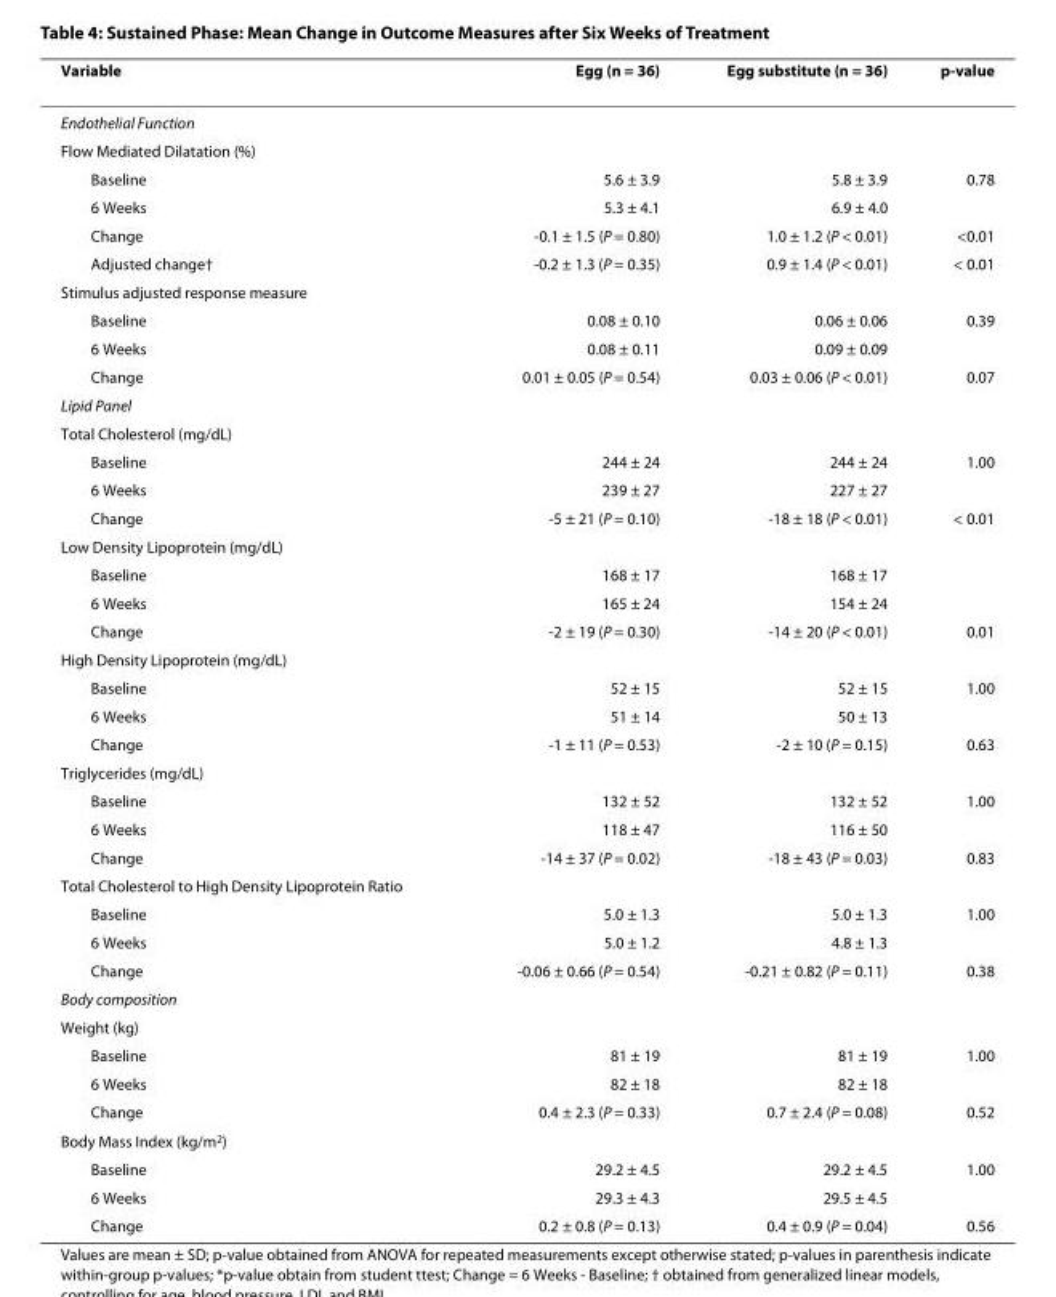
<table><thead><tr><td>Variable</td><td>Egg (n = 36)</td><td>Egg substitute (n = 36)</td><td>p-value</td></tr></thead><tbody><tr><td colspan="4">Endothelial Function</td></tr><tr><td colspan="4">Flow Mediated Dilatation (%)</td></tr><tr><td>Baseline</td><td>5.6 ± 3.9</td><td>5.8 ± 3.9</td><td>0.78</td></tr><tr><td>6 Weeks</td><td>5.3 ± 4.1</td><td>6.9 ± 4.0</td><td></td></tr><tr><td>Change</td><td>-0.1 ± 1.5 (P = 0.80)</td><td>1.0 ± 1.2 (P &lt; 0.01)</td><td>&lt;0.01</td></tr><tr><td>Adjusted change†</td><td>-0.2 ± 1.3 (P = 0.35)</td><td>0.9 ± 1.4 (P &lt; 0.01)</td><td>&lt; 0.01</td></tr><tr><td colspan="4">Stimulus adjusted response measure</td></tr><tr><td>Baseline</td><td>0.08 ± 0.10</td><td>0.06 ± 0.06</td><td>0.39</td></tr><tr><td>6 Weeks</td><td>0.08 ± 0.11</td><td>0.09 ± 0.09</td><td></td></tr><tr><td>Change</td><td>0.01 ± 0.05 (P = 0.54)</td><td>0.03 ± 0.06 (P &lt; 0.01)</td><td>0.07</td></tr><tr><td colspan="4">Lipid Panel</td></tr><tr><td colspan="4">Total Cholesterol (mg/dL)</td></tr><tr><td>Baseline</td><td>244 ± 24</td><td>244 ± 24</td><td>1.00</td></tr><tr><td>6 Weeks</td><td>239 ± 27</td><td>227 ± 27</td><td></td></tr><tr><td>Change</td><td>-5 ± 21 (P = 0.10)</td><td>-18 ± 18 (P &lt; 0.01)</td><td>&lt; 0.01</td></tr><tr><td colspan="4">Low Density Lipoprotein (mg/dL)</td></tr><tr><td>Baseline</td><td>168 ± 17</td><td>168 ± 17</td><td></td></tr><tr><td>6 Weeks</td><td>165 ± 24</td><td>154 ± 24</td><td></td></tr><tr><td>Change</td><td>-2 ± 19 (P = 0.30)</td><td>-14 ± 20 (P &lt; 0.01)</td><td>0.01</td></tr><tr><td colspan="4">High Density Lipoprotein (mg/dL)</td></tr><tr><td>Baseline</td><td>52 ± 15</td><td>52 ± 15</td><td>1.00</td></tr><tr><td>6 Weeks</td><td>51 ± 14</td><td>50 ± 13</td><td></td></tr><tr><td>Change</td><td>-1 ± 11 (P = 0.53)</td><td>-2 ± 10 (P = 0.15)</td><td>0.63</td></tr><tr><td colspan="4">Triglycerides (mg/dL)</td></tr><tr><td>Baseline</td><td>132 ± 52</td><td>132 ± 52</td><td>1.00</td></tr><tr><td>6 Weeks</td><td>118 ± 47</td><td>116 ± 50</td><td></td></tr><tr><td>Change</td><td>-14 ± 37 (P = 0.02)</td><td>-18 ± 43 (P = 0.03)</td><td>0.83</td></tr><tr><td colspan="4">Total Cholesterol to High Density Lipoprotein Ratio</td></tr><tr><td>Baseline</td><td>5.0 ± 1.3</td><td>5.0 ± 1.3</td><td>1.00</td></tr><tr><td>6 Weeks</td><td>5.0 ± 1.2</td><td>4.8 ± 1.3</td><td></td></tr><tr><td>Change</td><td>-0.06 ± 0.66 (P = 0.54)</td><td>-0.21 ± 0.82 (P = 0.11)</td><td>0.38</td></tr><tr><td colspan="4">Body composition</td></tr><tr><td colspan="4">Weight (kg)</td></tr><tr><td>Baseline</td><td>81 ± 19</td><td>81 ± 19</td><td>1.00</td></tr><tr><td>6 Weeks</td><td>82 ± 18</td><td>82 ± 18</td><td></td></tr><tr><td>Change</td><td>0.4 ± 2.3 (P = 0.33)</td><td>0.7 ± 2.4 (P = 0.08)</td><td>0.52</td></tr><tr><td colspan="4">Body Mass Index (kg/m<sup>2</sup>)</td></tr><tr><td>Baseline</td><td>29.2 ± 4.5</td><td>29.2 ± 4.5</td><td>1.00</td></tr><tr><td>6 Weeks</td><td>29.3 ± 4.3</td><td>29.5 ± 4.5</td><td></td></tr><tr><td>Change</td><td>0.2 ± 0.8 (P = 0.13)</td><td>0.4 ± 0.9 (P = 0.04)</td><td>0.56</td></tr></tbody></table>